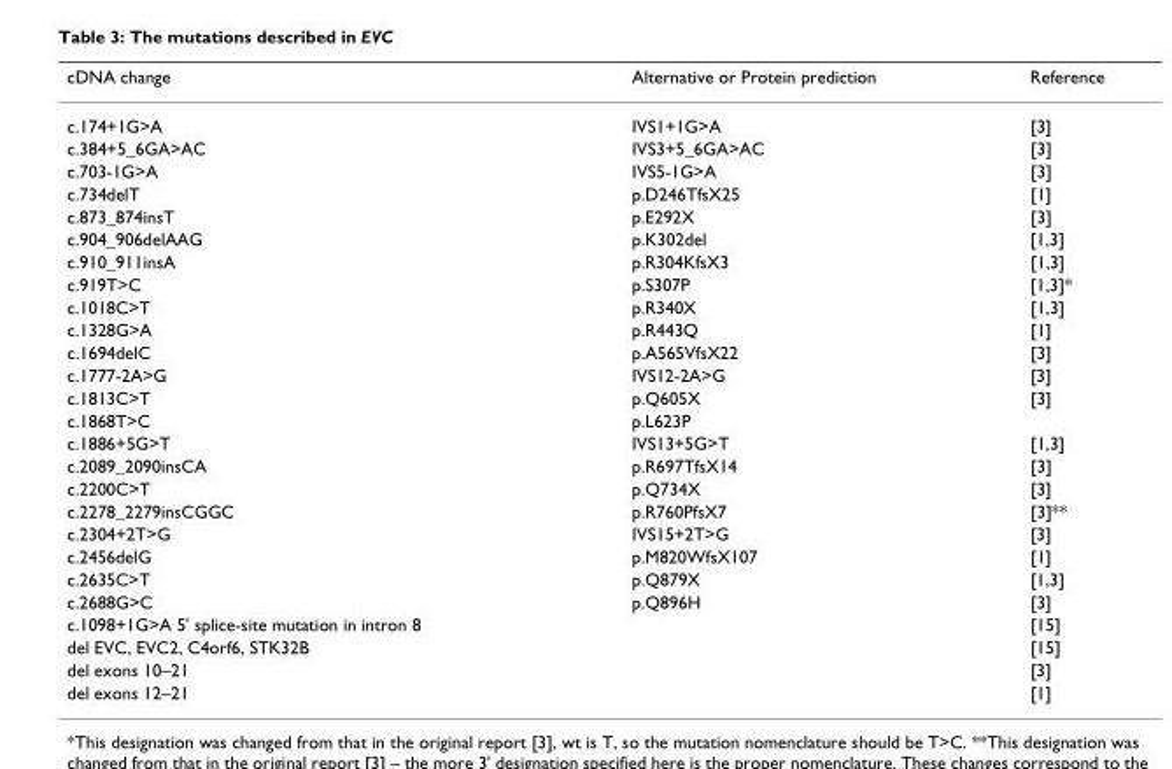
<table><thead><tr><td>cDNA change</td><td>Alternative or Protein prediction</td><td>Reference</td></tr></thead><tbody><tr><td>c.174+1G&gt;A</td><td>IVS1+1G&gt;A</td><td>[3]</td></tr><tr><td>c.384+5_6GA&gt;AC</td><td>IVS3+5_6GA&gt;AC</td><td>[3]</td></tr><tr><td>c.703-1G&gt;A</td><td>IVS5-1G&gt;A</td><td>[3]</td></tr><tr><td>c.734delT</td><td>p.D246TfsX25</td><td>[1]</td></tr><tr><td>c.873_874insT</td><td>p.E292X</td><td>[3]</td></tr><tr><td>c.904_906delAAG</td><td>p.K302del</td><td>[1,3]</td></tr><tr><td>c.910_911insA</td><td>p.R304KfsX3</td><td>[1,3]</td></tr><tr><td>c.919T&gt;C</td><td>p.S307P</td><td>[1,3]*</td></tr><tr><td>c.1018C&gt;T</td><td>p.R340X</td><td>[1,3]</td></tr><tr><td>c.1328G&gt;A</td><td>p.R443Q</td><td>[1]</td></tr><tr><td>c.1694delC</td><td>p.A565VfsX22</td><td>[3]</td></tr><tr><td>c.1777-2A&gt;G</td><td>IVS12-2A&gt;G</td><td>[3]</td></tr><tr><td>c.1813C&gt;T</td><td>p.Q605X</td><td>[3]</td></tr><tr><td>c.1868T&gt;C</td><td>p.L623P</td><td></td></tr><tr><td>c.1886+5G&gt;T</td><td>IVS13+5G&gt;T</td><td>[1,3]</td></tr><tr><td>c.2089_2090insCA</td><td>p.R697TfsX14</td><td>[3]</td></tr><tr><td>c.2200C&gt;T</td><td>p.Q734X</td><td>[3]</td></tr><tr><td>c.2278_2279insCGGC</td><td>p.R760PfsX7</td><td>[3]**</td></tr><tr><td>c.2304+2T&gt;G</td><td>IVS15+2T&gt;G</td><td>[3]</td></tr><tr><td>c.2456delG</td><td>p.M820WfsX107</td><td>[1]</td></tr><tr><td>c.2635C&gt;T</td><td>p.Q879X</td><td>[1,3]</td></tr><tr><td>c.2688G&gt;C</td><td>p.Q896H</td><td>[3]</td></tr><tr><td>c.1098+1G&gt;A 5&#x27; splice-site mutation in intron 8</td><td></td><td>[15]</td></tr><tr><td>del EVC, EVC2, C4orf6, STK32B</td><td></td><td>[15]</td></tr><tr><td>del exons 10–21</td><td></td><td>[3]</td></tr><tr><td>del exons 12–21</td><td></td><td>[1]</td></tr></tbody></table>